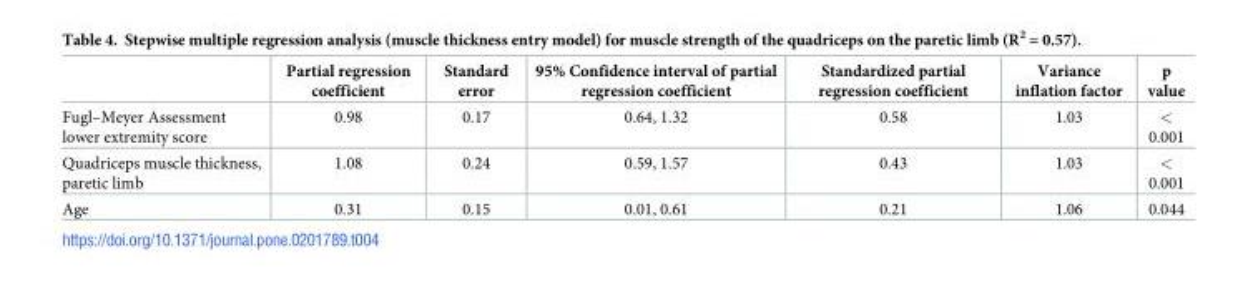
<table><thead><tr><td></td><td>Partial regression coefficient</td><td>Standard error</td><td>95% Confidence interval of partial regression coefficient</td><td>Standardized partial regression coefficient</td><td>Variance inflation factor</td><td>p value</td></tr></thead><tbody><tr><td>Fugl–Meyer Assessment lower extremity score</td><td>0.98</td><td>0.17</td><td>0.64, 1.32</td><td>0.58</td><td>1.03</td><td>&lt; 0.001</td></tr><tr><td>Quadriceps muscle thickness, paretic limb</td><td>1.08</td><td>0.24</td><td>0.59, 1.57</td><td>0.43</td><td>1.03</td><td>&lt; 0.001</td></tr><tr><td>Age</td><td>0.31</td><td>0.15</td><td>0.01, 0.61</td><td>0.21</td><td>1.06</td><td>0.044</td></tr></tbody></table>